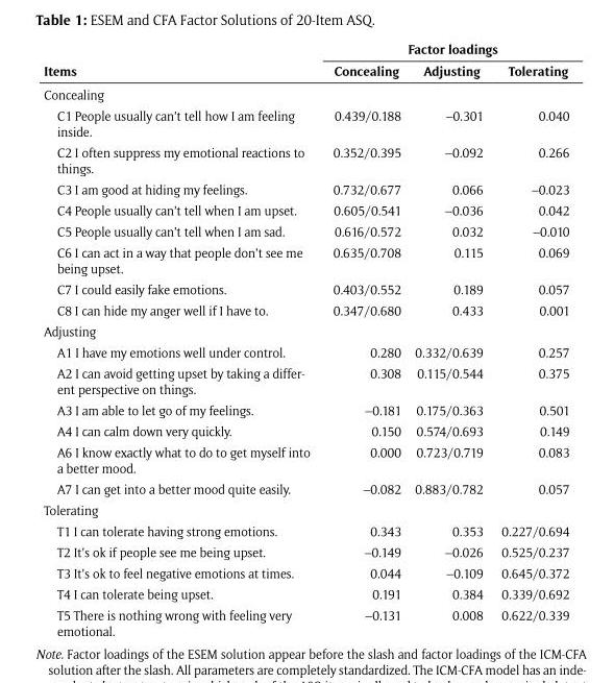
<table><thead><tr><td rowspan="2">Items</td><td colspan="3">Factor loadings</td></tr><tr><td>Concealing</td><td>Adjusting</td><td>Tolerating</td></tr></thead><tbody><tr><td colspan="4">Concealing</td></tr><tr><td>C1 People usually can’t tell how I am feeling inside.</td><td>0.439/0.188</td><td>–0.301</td><td>0.040</td></tr><tr><td>C2 I often suppress my emotional reactions to things.</td><td>0.352/0.395</td><td>–0.092</td><td>0.266</td></tr><tr><td>C3 I am good at hiding my feelings.</td><td>0.732/0.677</td><td>0.066</td><td>–0.023</td></tr><tr><td>C4 People usually can’t tell when I am upset.</td><td>0.605/0.541</td><td>–0.036</td><td>0.042</td></tr><tr><td>C5 People usually can’t tell when I am sad.</td><td>0.616/0.572</td><td>0.032</td><td>–0.010</td></tr><tr><td>C6 I can act in a way that people don’t see me being upset.</td><td>0.635/0.708</td><td>0.115</td><td>0.069</td></tr><tr><td>C7 I could easily fake emotions.</td><td>0.403/0.552</td><td>0.189</td><td>0.057</td></tr><tr><td>C8 I can hide my anger well if I have to.</td><td>0.347/0.680</td><td>0.433</td><td>0.001</td></tr><tr><td colspan="4">Adjusting</td></tr><tr><td>A1 I have my emotions well under control.</td><td>0.280</td><td>0.332/0.639</td><td>0.257</td></tr><tr><td>A2 I can avoid getting upset by taking a differ- ent perspective on things.</td><td>0.308</td><td>0.115/0.544</td><td>0.375</td></tr><tr><td>A3 I am able to let go of my feelings.</td><td>–0.181</td><td>0.175/0.363</td><td>0.501</td></tr><tr><td>A4 I can calm down very quickly.</td><td>0.150</td><td>0.574/0.693</td><td>0.149</td></tr><tr><td>A6 I know exactly what to do to get myself into a better mood.</td><td>0.000</td><td>0.723/0.719</td><td>0.083</td></tr><tr><td>A7 I can get into a better mood quite easily.</td><td>–0.082</td><td>0.883/0.782</td><td>0.057</td></tr><tr><td colspan="4">Tolerating</td></tr><tr><td>T1 I can tolerate having strong emotions.</td><td>0.343</td><td>0.353</td><td>0.227/0.694</td></tr><tr><td>T2 It’s ok if people see me being upset.</td><td>–0.149</td><td>–0.026</td><td>0.525/0.237</td></tr><tr><td>T3 It’s ok to feel negative emotions at times.</td><td>0.044</td><td>–0.109</td><td>0.645/0.372</td></tr><tr><td>T4 I can tolerate being upset.</td><td>0.191</td><td>0.384</td><td>0.339/0.692</td></tr><tr><td>T5 There is nothing wrong with feeling very emotional.</td><td>–0.131</td><td>0.008</td><td>0.622/0.339</td></tr></tbody></table>